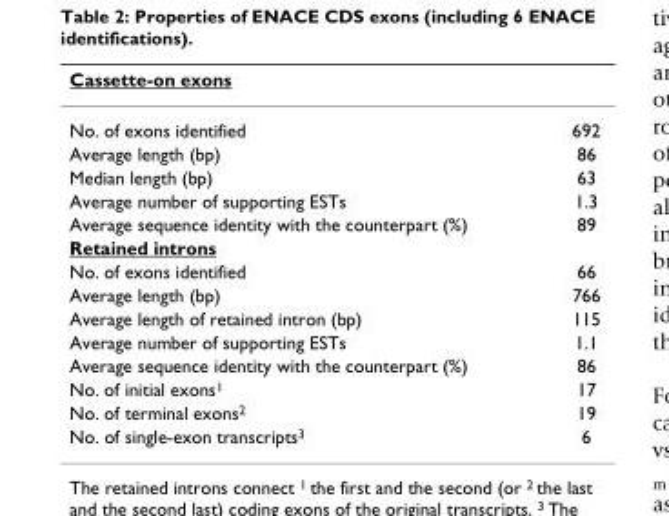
<table><thead><tr><td>Cassette-on exons</td><td></td></tr></thead><tbody><tr><td>No. of exons identified</td><td>692</td></tr><tr><td>Average length (bp)</td><td>86</td></tr><tr><td>Median length (bp)</td><td>63</td></tr><tr><td>Average number of supporting ESTs</td><td>1.3</td></tr><tr><td>Average sequence identity with the counterpart (%)</td><td>89</td></tr><tr><td colspan="2">Retained introns</td></tr><tr><td>No. of exons identified</td><td>66</td></tr><tr><td>Average length (bp)</td><td>766</td></tr><tr><td>Average length of retained intron (bp)</td><td>115</td></tr><tr><td>Average number of supporting ESTs</td><td>1.1</td></tr><tr><td>Average sequence identity with the counterpart (%)</td><td>86</td></tr><tr><td>No. of initial exons1</td><td>17</td></tr><tr><td>No. of terminal exons2</td><td>19</td></tr><tr><td>No. of single-exon transcripts3</td><td>6</td></tr></tbody></table>